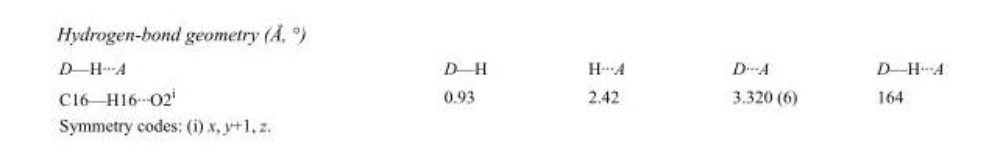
<table><tbody><tr><td>D—H···A</td><td>D—H</td><td>H···A</td><td>D···A</td><td>D—H···A</td></tr><tr><td>C16—H16···O2<sup>i</sup></td><td>0.93</td><td>2.42</td><td>3.320 (6)</td><td>164</td></tr></tbody></table>